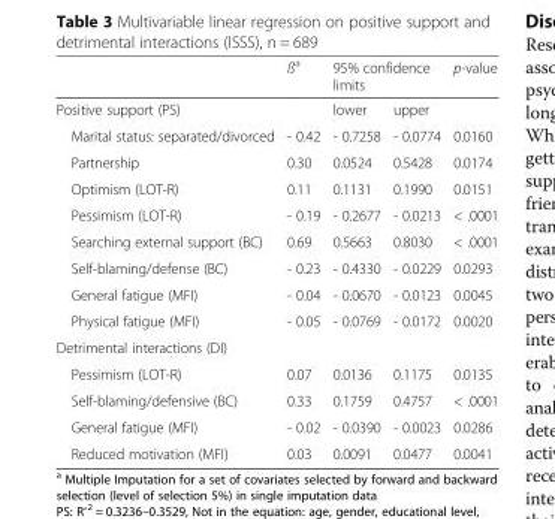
<table><thead><tr><td rowspan="2">Positive support (PS)</td><td rowspan="2">ß<sup>a</sup></td><td colspan="2">95% confidence limits</td><td rowspan="2">p-value</td></tr><tr><td>lower</td><td>upper</td></tr></thead><tbody><tr><td>Marital status: separated/divorced</td><td>- 0.42</td><td>- 0.7258</td><td>- 0.0774</td><td>0.0160</td></tr><tr><td>Partnership</td><td>0.30</td><td>0.0524</td><td>0.5428</td><td>0.0174</td></tr><tr><td>Optimism (LOT-R)</td><td>0.11</td><td>0.1131</td><td>0.1990</td><td>0.0151</td></tr><tr><td>Pessimism (LOT-R)</td><td>- 0.19</td><td>- 0.2677</td><td>- 0.0213</td><td>&lt; .0001</td></tr><tr><td>Searching external support (BC)</td><td>0.69</td><td>0.5663</td><td>0.8030</td><td>&lt; .0001</td></tr><tr><td>Self-blaming/defense (BC)</td><td>- 0.23</td><td>- 0.4330</td><td>- 0.0229</td><td>0.0293</td></tr><tr><td>General fatigue (MFI)</td><td>- 0.04</td><td>- 0.0670</td><td>- 0.0123</td><td>0.0045</td></tr><tr><td>Physical fatigue (MFI)</td><td>- 0.05</td><td>- 0.0769</td><td>- 0.0172</td><td>0.0020</td></tr><tr><td colspan="5">Detrimental interactions (DI)</td></tr><tr><td>Pessimism (LOT-R)</td><td>0.07</td><td>0.0136</td><td>0.1175</td><td>0.0135</td></tr><tr><td>Self-blaming/defensive (BC)</td><td>0.33</td><td>0.1759</td><td>0.4757</td><td>&lt; .0001</td></tr><tr><td>General fatigue (MFI)</td><td>- 0.02</td><td>- 0.0390</td><td>- 0.0023</td><td>0.0286</td></tr><tr><td>Reduced motivation (MFI)</td><td>0.03</td><td>0.0091</td><td>0.0477</td><td>0.0041</td></tr></tbody></table>